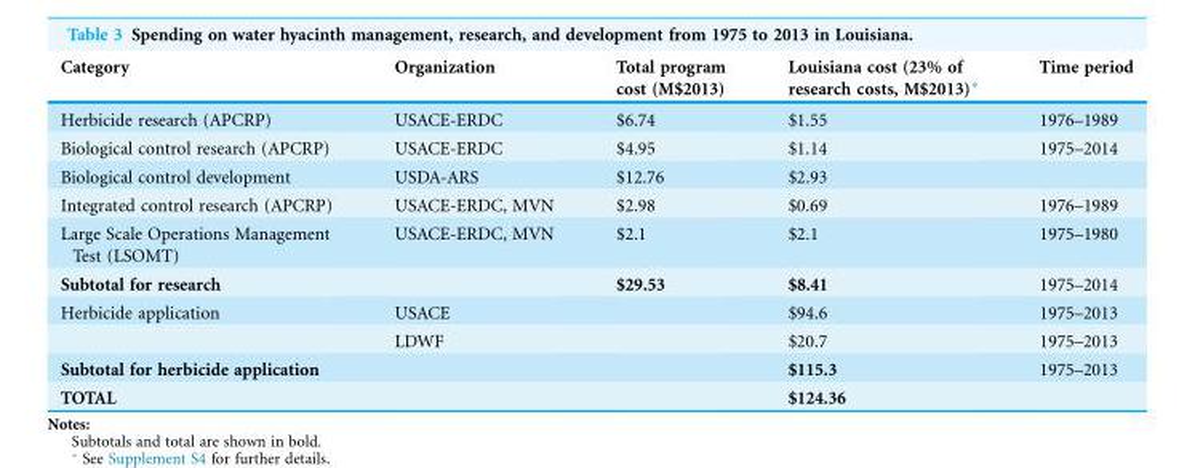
<table><thead><tr><td>Category</td><td>Organization</td><td>Total program cost (M$2013)</td><td>Louisiana cost (23% of research costs, M$2013)*</td><td>Time period</td></tr></thead><tbody><tr><td>Herbicide research (APCRP)</td><td>USACE-ERDC</td><td>$6.74</td><td>$1.55</td><td>1976–1989</td></tr><tr><td>Biological control research (APCRP)</td><td>USACE-ERDC</td><td>$4.95</td><td>$1.14</td><td>1975–2014</td></tr><tr><td>Biological control development</td><td>USDA-ARS</td><td>$12.76</td><td>$2.93</td><td></td></tr><tr><td>Integrated control research (APCRP)</td><td>USACE-ERDC, MVN</td><td>$2.98</td><td>$0.69</td><td>1976–1989</td></tr><tr><td>Large Scale Operations Management Test (LSOMT)</td><td>USACE-ERDC, MVN</td><td>$2.1</td><td>$2.1</td><td>1975–1980</td></tr><tr><td>Subtotal for research</td><td></td><td>$29.53</td><td>$8.41</td><td>1975–2014</td></tr><tr><td rowspan="2">Herbicide application</td><td>USACE</td><td></td><td>$94.6</td><td>1975–2013</td></tr><tr><td>LDWF</td><td></td><td>$20.7</td><td>1975–2013</td></tr><tr><td>Subtotal for herbicide application</td><td></td><td></td><td>$115.3</td><td>1975–2013</td></tr><tr><td>TOTAL</td><td></td><td></td><td>$124.36</td><td></td></tr></tbody></table>